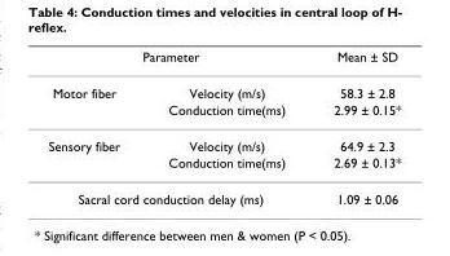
<table><thead><tr><td colspan="2">Parameter</td><td rowspan="2">Mean ± SD 58.3 ± 2.8</td></tr><tr><td>Motor fiber</td><td>Velocity (m/s)</td></tr></thead><tbody><tr><td></td><td>Conduction time(ms)</td><td>2.99 ± 0.15*</td></tr><tr><td rowspan="2">Sensory fiber</td><td>Velocity (m/s)</td><td>64.9 ± 2.3</td></tr><tr><td>Conduction time(ms)</td><td>2.69 ± 0.13*</td></tr><tr><td colspan="2">Sacral cord conduction delay (ms)</td><td>1.09 ± 0.06</td></tr></tbody></table>